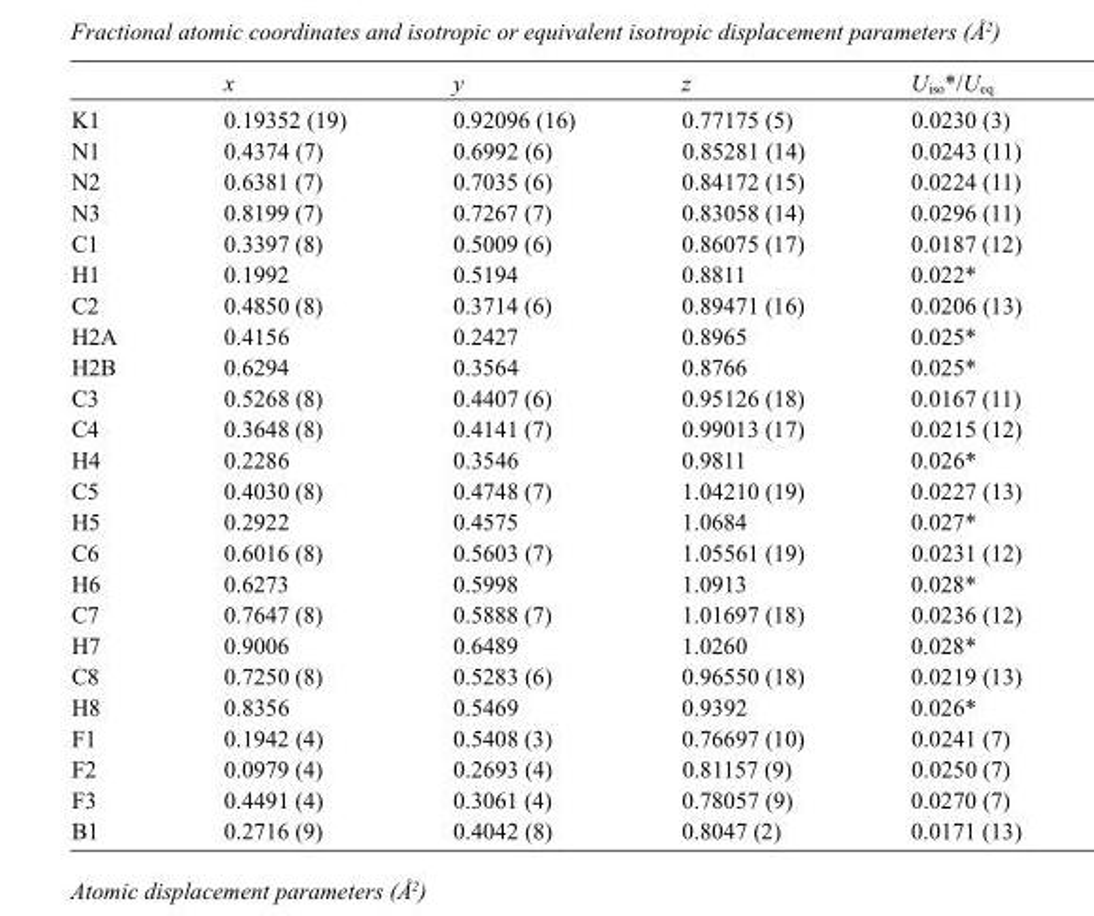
<table><thead><tr><td></td><td>x</td><td>y</td><td>z</td><td>U<sub>iso</sub>*/U<sub>eq</sub></td></tr></thead><tbody><tr><td>K1</td><td>0.19352 (19)</td><td>0.92096 (16)</td><td>0.77175 (5)</td><td>0.0230 (3)</td></tr><tr><td>N1</td><td>0.4374 (7)</td><td>0.6992 (6)</td><td>0.85281 (14)</td><td>0.0243 (11)</td></tr><tr><td>N2</td><td>0.6381 (7)</td><td>0.7035 (6)</td><td>0.84172 (15)</td><td>0.0224 (11)</td></tr><tr><td>N3</td><td>0.8199 (7)</td><td>0.7267 (7)</td><td>0.83058 (14)</td><td>0.0296 (11)</td></tr><tr><td>C1</td><td>0.3397 (8)</td><td>0.5009 (6)</td><td>0.86075 (17)</td><td>0.0187 (12)</td></tr><tr><td>H1</td><td>0.1992</td><td>0.5194</td><td>0.8811</td><td>0.022*</td></tr><tr><td>C2</td><td>0.4850 (8)</td><td>0.3714 (6)</td><td>0.89471 (16)</td><td>0.0206 (13)</td></tr><tr><td>H2A</td><td>0.4156</td><td>0.2427</td><td>0.8965</td><td>0.025*</td></tr><tr><td>H2B</td><td>0.6294</td><td>0.3564</td><td>0.8766</td><td>0.025*</td></tr><tr><td>C3</td><td>0.5268 (8)</td><td>0.4407 (6)</td><td>0.95126 (18)</td><td>0.0167 (11)</td></tr><tr><td>C4</td><td>0.3648 (8)</td><td>0.4141 (7)</td><td>0.99013 (17)</td><td>0.0215 (12)</td></tr><tr><td>H4</td><td>0.2286</td><td>0.3546</td><td>0.9811</td><td>0.026*</td></tr><tr><td>C5</td><td>0.4030 (8)</td><td>0.4748 (7)</td><td>1.04210 (19)</td><td>0.0227 (13)</td></tr><tr><td>H5</td><td>0.2922</td><td>0.4575</td><td>1.0684</td><td>0.027*</td></tr><tr><td>C6</td><td>0.6016 (8)</td><td>0.5603 (7)</td><td>1.05561 (19)</td><td>0.0231 (12)</td></tr><tr><td>H6</td><td>0.6273</td><td>0.5998</td><td>1.0913</td><td>0.028*</td></tr><tr><td>C7</td><td>0.7647 (8)</td><td>0.5888 (7)</td><td>1.01697 (18)</td><td>0.0236 (12)</td></tr><tr><td>H7</td><td>0.9006</td><td>0.6489</td><td>1.0260</td><td>0.028*</td></tr><tr><td>C8</td><td>0.7250 (8)</td><td>0.5283 (6)</td><td>0.96550 (18)</td><td>0.0219 (13)</td></tr><tr><td>H8</td><td>0.8356</td><td>0.5469</td><td>0.9392</td><td>0.026*</td></tr><tr><td>F1</td><td>0.1942 (4)</td><td>0.5408 (3)</td><td>0.76697 (10)</td><td>0.0241 (7)</td></tr><tr><td>F2</td><td>0.0979 (4)</td><td>0.2693 (4)</td><td>0.81157 (9)</td><td>0.0250 (7)</td></tr><tr><td>F3</td><td>0.4491 (4)</td><td>0.3061 (4)</td><td>0.78057 (9)</td><td>0.0270 (7)</td></tr><tr><td>B1</td><td>0.2716 (9)</td><td>0.4042 (8)</td><td>0.8047 (2)</td><td>0.0171 (13)</td></tr></tbody></table>